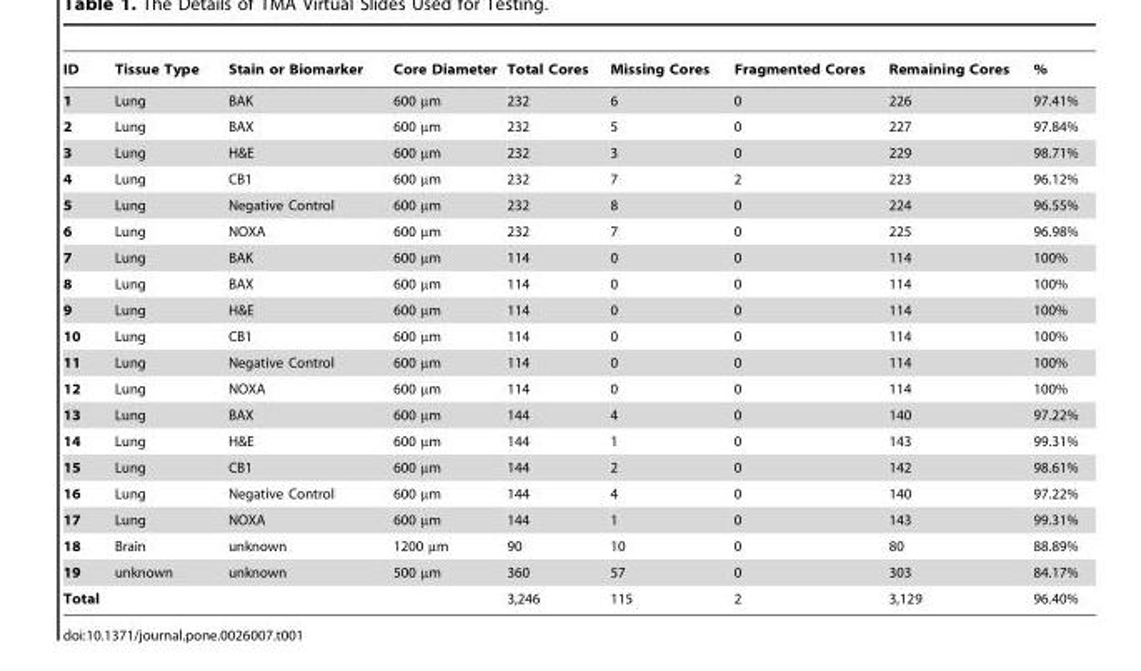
<table><thead><tr><td>ID</td><td>Tissue Type</td><td>Stain or Biomarker</td><td>Core Diameter</td><td>Total Cores</td><td>Missing Cores</td><td>Fragmented Cores</td><td>Remaining Cores</td><td>%</td></tr></thead><tbody><tr><td>1</td><td>Lung</td><td>BAK</td><td>600 µm</td><td>232</td><td>6</td><td>0</td><td>226</td><td>97.41%</td></tr><tr><td>2</td><td>Lung</td><td>BAX</td><td>600 µm</td><td>232</td><td>5</td><td>0</td><td>227</td><td>97.84%</td></tr><tr><td>3</td><td>Lung</td><td>H&amp;E</td><td>600 µm</td><td>232</td><td>3</td><td>0</td><td>229</td><td>98.71%</td></tr><tr><td>4</td><td>Lung</td><td>CB1</td><td>600 µm</td><td>232</td><td>7</td><td>2</td><td>223</td><td>96.12%</td></tr><tr><td>5</td><td>Lung</td><td>Negative Control</td><td>600 µm</td><td>232</td><td>8</td><td>0</td><td>224</td><td>96.55%</td></tr><tr><td>6</td><td>Lung</td><td>NOXA</td><td>600 µm</td><td>232</td><td>7</td><td>0</td><td>225</td><td>96.98%</td></tr><tr><td>7</td><td>Lung</td><td>BAK</td><td>600 µm</td><td>114</td><td>0</td><td>0</td><td>114</td><td>100%</td></tr><tr><td>8</td><td>Lung</td><td>BAX</td><td>600 µm</td><td>114</td><td>0</td><td>0</td><td>114</td><td>100%</td></tr><tr><td>9</td><td>Lung</td><td>H&amp;E</td><td>600 µm</td><td>114</td><td>0</td><td>0</td><td>114</td><td>100%</td></tr><tr><td>10</td><td>Lung</td><td>CB1</td><td>600 µm</td><td>114</td><td>0</td><td>0</td><td>114</td><td>100%</td></tr><tr><td>11</td><td>Lung</td><td>Negative Control</td><td>600 µm</td><td>114</td><td>0</td><td>0</td><td>114</td><td>100%</td></tr><tr><td>12</td><td>Lung</td><td>NOXA</td><td>600 µm</td><td>114</td><td>0</td><td>0</td><td>114</td><td>100%</td></tr><tr><td>13</td><td>Lung</td><td>BAX</td><td>600 µm</td><td>144</td><td>4</td><td>0</td><td>140</td><td>97.22%</td></tr><tr><td>14</td><td>Lung</td><td>H&amp;E</td><td>600 µm</td><td>144</td><td>1</td><td>0</td><td>143</td><td>99.31%</td></tr><tr><td>15</td><td>Lung</td><td>CB1</td><td>600 µm</td><td>144</td><td>2</td><td>0</td><td>142</td><td>98.61%</td></tr><tr><td>16</td><td>Lung</td><td>Negative Control</td><td>600 µm</td><td>144</td><td>4</td><td>0</td><td>140</td><td>97.22%</td></tr><tr><td>17</td><td>Lung</td><td>NOXA</td><td>600 µm</td><td>144</td><td>1</td><td>0</td><td>143</td><td>99.31%</td></tr><tr><td>18</td><td>Brain</td><td>unknown</td><td>1200 µm</td><td>90</td><td>10</td><td>0</td><td>80</td><td>88.89%</td></tr><tr><td>19</td><td>unknown</td><td>unknown</td><td>500 µm</td><td>360</td><td>57</td><td>0</td><td>303</td><td>84.17%</td></tr><tr><td colspan="4">Total</td><td>3,246</td><td>115</td><td>2</td><td>3,129</td><td>96.40%</td></tr></tbody></table>